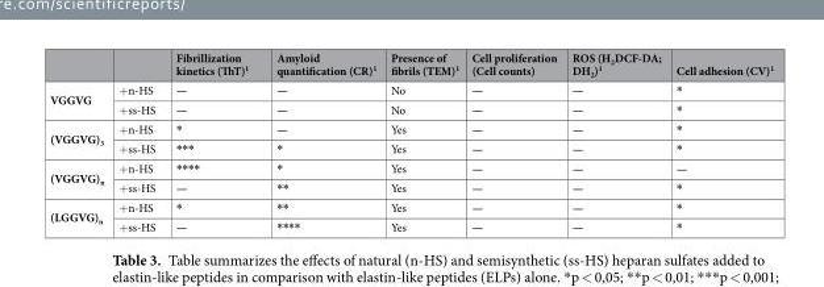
<table><thead><tr><td></td><td></td><td>Fibrillization kinetics (ThT)<sup>1</sup></td><td>Amyloid quantification (CR)<sup>1</sup></td><td>Presence of fibrils (TEM)<sup>1</sup></td><td>Cell proliferation (Cell counts)</td><td>ROS (H<sub>2</sub>DCF-DA; DH<sub>2</sub>)<sup>1</sup></td><td>Cell adhesion (CV)<sup>1</sup></td></tr></thead><tbody><tr><td rowspan="2">VGGVG</td><td>+n-HS</td><td>—</td><td>—</td><td>No</td><td>—</td><td>—</td><td>*</td></tr><tr><td>+ss-HS</td><td>—</td><td>—</td><td>No</td><td>—</td><td>—</td><td>*</td></tr><tr><td rowspan="2">(VGGVG)<sub>3</sub></td><td>+n-HS</td><td>*</td><td>—</td><td>Yes</td><td>—</td><td>—</td><td>*</td></tr><tr><td>+ss-HS</td><td>***</td><td>*</td><td>Yes</td><td>—</td><td>—</td><td>*</td></tr><tr><td rowspan="2">(VGGVG)<sub>n</sub></td><td>+n-HS</td><td>****</td><td>*</td><td>Yes</td><td>—</td><td>—</td><td>—</td></tr><tr><td>+ss-HS</td><td>—</td><td>**</td><td>Yes</td><td>—</td><td>—</td><td>*</td></tr><tr><td rowspan="2">(LGGVG)<sub>n</sub></td><td>+n-HS</td><td>*</td><td>**</td><td>Yes</td><td>—</td><td>—</td><td>*</td></tr><tr><td>+ss-HS</td><td>—</td><td>****</td><td>Yes</td><td>—</td><td>—</td><td>*</td></tr></tbody></table>